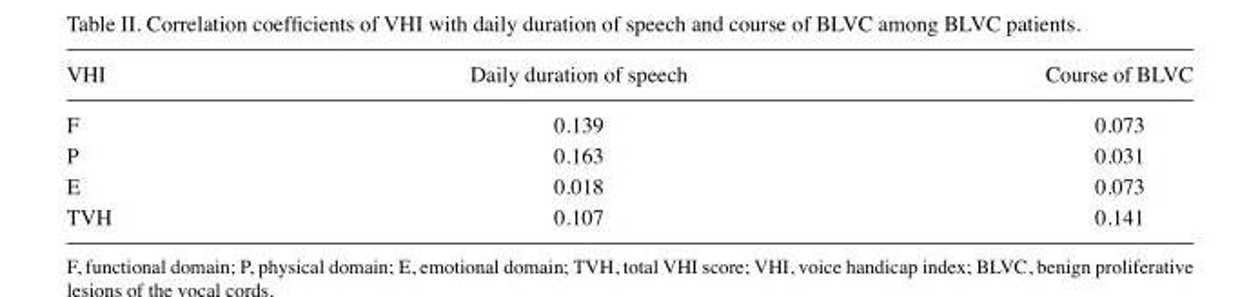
<table><thead><tr><td>VHI</td><td>Daily duration of speech</td><td>Course of BLVC</td></tr></thead><tbody><tr><td>F</td><td>0.139</td><td>0.073</td></tr><tr><td>P</td><td>0.163</td><td>0.031</td></tr><tr><td>E</td><td>0.018</td><td>0.073</td></tr><tr><td>TVH</td><td>0.107</td><td>0.141</td></tr></tbody></table>